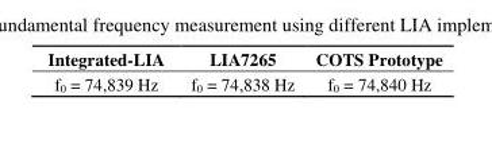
<table><thead><tr><td>Integrated-LIA</td><td>LIA7265</td><td>COTS Prototype</td></tr></thead><tbody><tr><td>f<sub>0</sub> = 74,839 Hz</td><td>f<sub>0</sub> = 74,838 Hz</td><td>f<sub>0</sub> = 74,840 Hz</td></tr></tbody></table>